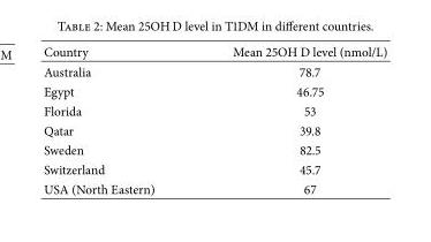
<table><thead><tr><td>Country</td><td>Mean 25OH D level (nmol/L)</td></tr></thead><tbody><tr><td>Australia</td><td>78.7</td></tr><tr><td>Egypt</td><td>46.75</td></tr><tr><td>Florida</td><td>53</td></tr><tr><td>Qatar</td><td>39.8</td></tr><tr><td>Sweden</td><td>82.5</td></tr><tr><td>Switzerland</td><td>45.7</td></tr><tr><td>USA (North Eastern)</td><td>67</td></tr></tbody></table>